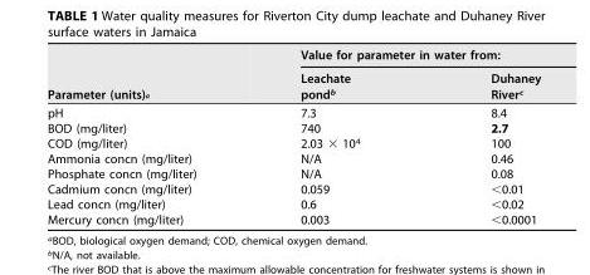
<table><thead><tr><td rowspan="2">Parameter (units)<sup>a</sup></td><td colspan="2">Value for parameter in water from:</td></tr><tr><td>Leachate pond<sup>b</sup></td><td>Duhaney River<sup>c</sup></td></tr></thead><tbody><tr><td>pH</td><td>7.3</td><td>8.4</td></tr><tr><td>BOD (mg/liter)</td><td>740</td><td>2.7</td></tr><tr><td>COD (mg/liter)</td><td>2.03 × 10<sup>4</sup></td><td>100</td></tr><tr><td>Ammonia concn (mg/liter)</td><td>N/A</td><td>0.46</td></tr><tr><td>Phosphate concn (mg/liter)</td><td>N/A</td><td>0.08</td></tr><tr><td>Cadmium concn (mg/liter)</td><td>0.059</td><td>&lt;0.01</td></tr><tr><td>Lead concn (mg/liter)</td><td>0.6</td><td>&lt;0.02</td></tr><tr><td>Mercury concn (mg/liter)</td><td>0.003</td><td>&lt;0.0001</td></tr></tbody></table>